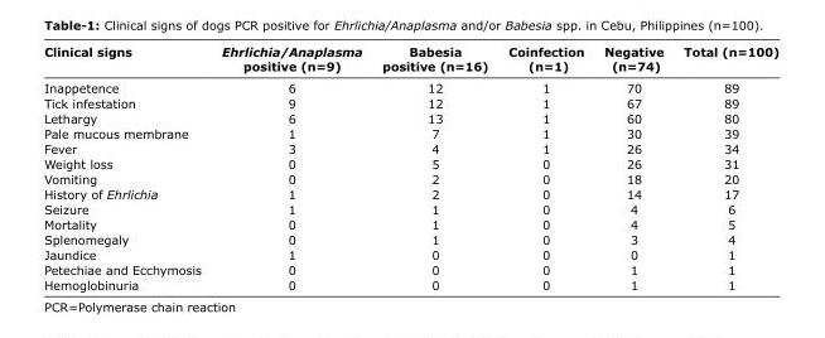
<table><thead><tr><td>Clinical signs</td><td>Ehrlichia/Anaplasma positive (n=9)</td><td>Babesia positive (n=16)</td><td>Coinfection (n=1)</td><td>Negative (n=74)</td><td>Total (n=100)</td></tr></thead><tbody><tr><td>Inappetence</td><td>6</td><td>12</td><td>1</td><td>70</td><td>89</td></tr><tr><td>Tick infestation</td><td>9</td><td>12</td><td>1</td><td>67</td><td>89</td></tr><tr><td>Lethargy</td><td>6</td><td>13</td><td>1</td><td>60</td><td>80</td></tr><tr><td>Pale mucous membrane</td><td>1</td><td>7</td><td>1</td><td>30</td><td>39</td></tr><tr><td>Fever</td><td>3</td><td>4</td><td>1</td><td>26</td><td>34</td></tr><tr><td>Weight loss</td><td>0</td><td>5</td><td>0</td><td>26</td><td>31</td></tr><tr><td>Vomiting</td><td>0</td><td>2</td><td>0</td><td>18</td><td>20</td></tr><tr><td>History of Ehrlichia</td><td>1</td><td>2</td><td>0</td><td>14</td><td>17</td></tr><tr><td>Seizure</td><td>1</td><td>1</td><td>0</td><td>4</td><td>6</td></tr><tr><td>Mortality</td><td>0</td><td>1</td><td>0</td><td>4</td><td>5</td></tr><tr><td>Splenomegaly</td><td>0</td><td>1</td><td>0</td><td>3</td><td>4</td></tr><tr><td>Jaundice</td><td>1</td><td>0</td><td>0</td><td>0</td><td>1</td></tr><tr><td>Petechiae and Ecchymosis</td><td>0</td><td>0</td><td>0</td><td>1</td><td>1</td></tr><tr><td>Hemoglobinuria</td><td>0</td><td>0</td><td>0</td><td>1</td><td>1</td></tr></tbody></table>